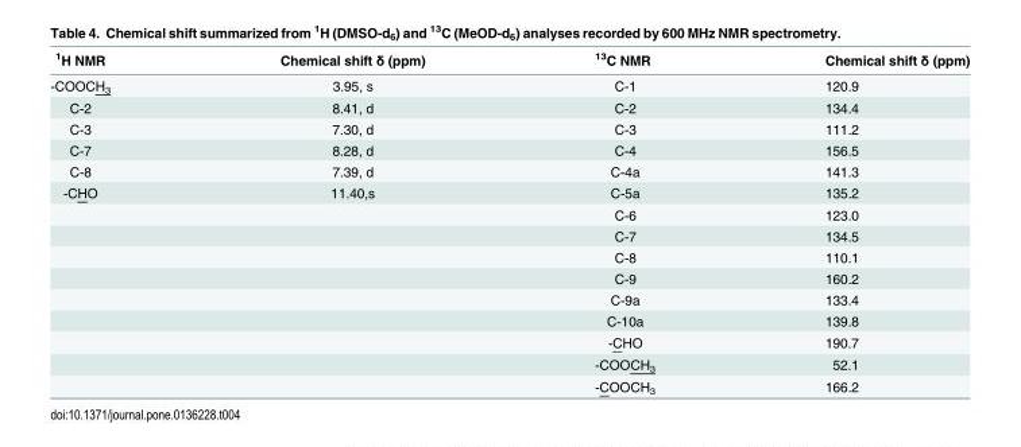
<table><thead><tr><td><sup>1</sup>H NMR</td><td>Chemical shift δ (ppm)</td><td><sup>13</sup>C NMR</td><td>Chemical shift δ (ppm)</td></tr></thead><tbody><tr><td>-COOCH<sub>3</sub></td><td>3.95, s</td><td>C-1</td><td>120.9</td></tr><tr><td>C-2</td><td>8.41, d</td><td>C-2</td><td>134.4</td></tr><tr><td>C-3</td><td>7.30, d</td><td>C-3</td><td>111.2</td></tr><tr><td>C-7</td><td>8.28, d</td><td>C-4</td><td>156.5</td></tr><tr><td>C-8</td><td>7.39, d</td><td>C-4a</td><td>141.3</td></tr><tr><td rowspan="10">-CHO</td><td>11.40,s</td><td>C-5a</td><td>135.2</td></tr><tr><td></td><td>C-6</td><td>123.0</td></tr><tr><td></td><td>C-7</td><td>134.5</td></tr><tr><td></td><td>C-8</td><td>110.1</td></tr><tr><td></td><td>C-9</td><td>160.2</td></tr><tr><td></td><td>C-9a</td><td>133.4</td></tr><tr><td></td><td>C-10a</td><td>139.8</td></tr><tr><td></td><td>-CHO</td><td>190.7</td></tr><tr><td></td><td>-COOCH<sub>3</sub></td><td>52.1</td></tr><tr><td></td><td>-COOCH<sub>3</sub></td><td>166.2</td></tr></tbody></table>